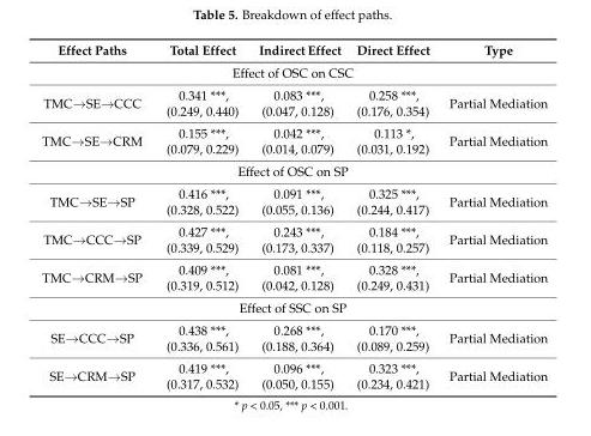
<table><thead><tr><td>Effect Paths</td><td>Total Effect</td><td>Indirect Effect</td><td>Direct Effect</td><td>Type</td></tr></thead><tbody><tr><td colspan="5">Effect of OSC on CSC</td></tr><tr><td>TMC→SE→CCC</td><td>0.341 ***, (0.249, 0.440)</td><td>0.083 ***, (0.047, 0.128)</td><td>0.258 ***, (0.176, 0.354)</td><td>Partial Mediation</td></tr><tr><td>TMC→SE→CRM</td><td>0.155 ***, (0.079, 0.229)</td><td>0.042 ***, (0.014, 0.079)</td><td>0.113 *, (0.031, 0.192)</td><td>Partial Mediation</td></tr><tr><td colspan="5">Effect of OSC on SP</td></tr><tr><td>TMC→SE→SP</td><td>0.416 ***, (0.328, 0.522)</td><td>0.091 ***, (0.055, 0.136)</td><td>0.325 ***, (0.244, 0.417)</td><td>Partial Mediation</td></tr><tr><td>TMC→CCC→SP</td><td>0.427 ***, (0.339, 0.529)</td><td>0.243 ***, (0.173, 0.337)</td><td>0.184 ***, (0.118, 0.257)</td><td>Partial Mediation</td></tr><tr><td>TMC→CRM→SP</td><td>0.409 ***, (0.319, 0.512)</td><td>0.081 ***, (0.042, 0.128)</td><td>0.328 ***, (0.249, 0.431)</td><td>Partial Mediation</td></tr><tr><td colspan="5">Effect of SSC on SP</td></tr><tr><td>SE→CCC→SP</td><td>0.438 ***, (0.336, 0.561)</td><td>0.268 ***, (0.188, 0.364)</td><td>0.170 ***, (0.089, 0.259)</td><td>Partial Mediation</td></tr><tr><td>SE→CRM→SP</td><td>0.419 ***, (0.317, 0.532)</td><td>0.096 ***, (0.050, 0.155)</td><td>0.323 ***, (0.234, 0.421)</td><td>Partial Mediation</td></tr></tbody></table>